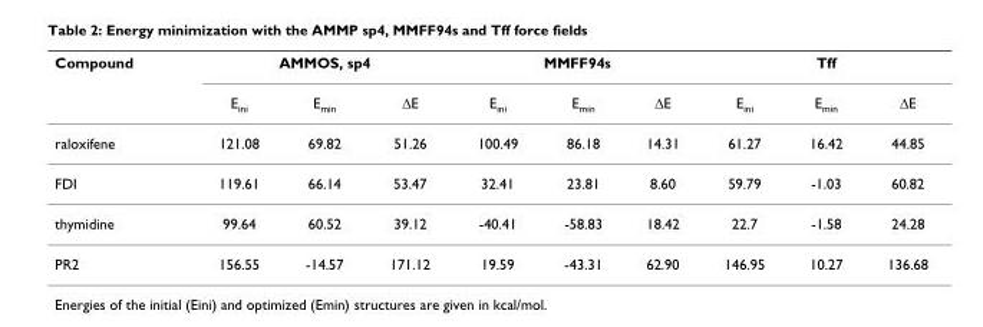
<table><thead><tr><td rowspan="2">Compound</td><td colspan="3">AMMOS, sp4</td><td colspan="3">MMFF94s</td><td colspan="3">Tff</td></tr><tr><td>E<sub>ini</sub></td><td>E<sub>min</sub></td><td>ΔE</td><td>E<sub>ini</sub></td><td>E<sub>min</sub></td><td>ΔE</td><td>E<sub>ini</sub></td><td>E<sub>min</sub></td><td>ΔE</td></tr></thead><tbody><tr><td>raloxifene</td><td>121.08</td><td>69.82</td><td>51.26</td><td>100.49</td><td>86.18</td><td>14.31</td><td>61.27</td><td>16.42</td><td>44.85</td></tr><tr><td>FDI</td><td>119.61</td><td>66.14</td><td>53.47</td><td>32.41</td><td>23.81</td><td>8.60</td><td>59.79</td><td>-1.03</td><td>60.82</td></tr><tr><td>thymidine</td><td>99.64</td><td>60.52</td><td>39.12</td><td>-40.41</td><td>-58.83</td><td>18.42</td><td>22.7</td><td>-1.58</td><td>24.28</td></tr><tr><td>PR2</td><td>156.55</td><td>-14.57</td><td>171.12</td><td>19.59</td><td>-43.31</td><td>62.90</td><td>146.95</td><td>10.27</td><td>136.68</td></tr></tbody></table>